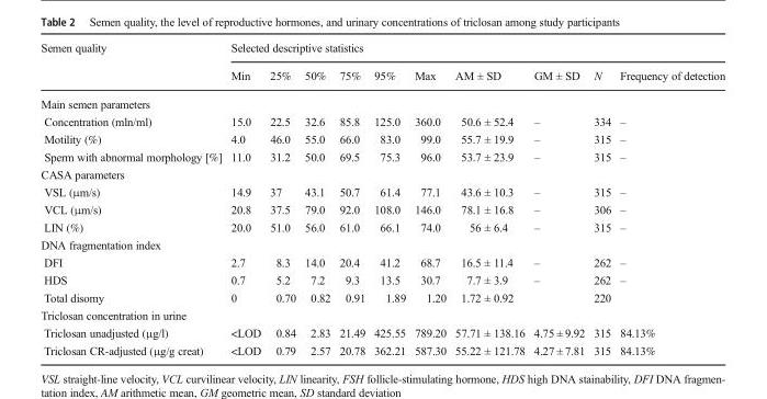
<table><thead><tr><td rowspan="2">Semen quality</td><td colspan="10">Selected descriptive statistics</td></tr><tr><td>Min</td><td>25%</td><td>50%</td><td>75%</td><td>95%</td><td>Max</td><td>AM ± SD</td><td>GM ± SD</td><td>N</td><td>Frequency of detection</td></tr></thead><tbody><tr><td colspan="11">Main semen parameters</td></tr><tr><td>Concentration (mln/ml)</td><td>15.0</td><td>22.5</td><td>32.6</td><td>85.8</td><td>125.0</td><td>360.0</td><td>50.6 ± 52.4</td><td>–</td><td>334</td><td>–</td></tr><tr><td>Motility (%)</td><td>4.0</td><td>46.0</td><td>55.0</td><td>66.0</td><td>83.0</td><td>99.0</td><td>55.7 ± 19.9</td><td>–</td><td>315</td><td>–</td></tr><tr><td>Sperm with abnormal morphology [%]</td><td>11.0</td><td>31.2</td><td>50.0</td><td>69.5</td><td>75.3</td><td>96.0</td><td>53.7 ± 23.9</td><td>–</td><td>315</td><td>–</td></tr><tr><td colspan="11">CASA parameters</td></tr><tr><td>VSL (μm/s)</td><td>14.9</td><td>37</td><td>43.1</td><td>50.7</td><td>61.4</td><td>77.1</td><td>43.6 ± 10.3</td><td>–</td><td>315</td><td>–</td></tr><tr><td>VCL (μm/s)</td><td>20.8</td><td>37.5</td><td>79.0</td><td>92.0</td><td>108.0</td><td>146.0</td><td>78.1 ± 16.8</td><td>–</td><td>306</td><td>–</td></tr><tr><td>LIN (%)</td><td>20.0</td><td>51.0</td><td>56.0</td><td>61.0</td><td>66.1</td><td>74.0</td><td>56 ± 6.4</td><td>–</td><td>315</td><td>–</td></tr><tr><td colspan="11">DNA fragmentation index</td></tr><tr><td>DFI</td><td>2.7</td><td>8.3</td><td>14.0</td><td>20.4</td><td>41.2</td><td>68.7</td><td>16.5 ± 11.4</td><td>–</td><td>262</td><td>–</td></tr><tr><td>HDS</td><td>0.7</td><td>5.2</td><td>7.2</td><td>9.3</td><td>13.5</td><td>30.7</td><td>7.7 ± 3.9</td><td>–</td><td>262</td><td>–</td></tr><tr><td>Total disomy</td><td>0</td><td>0.70</td><td>0.82</td><td>0.91</td><td>1.89</td><td>1.20</td><td>1.72 ± 0.92</td><td></td><td>220</td><td></td></tr><tr><td colspan="11">Triclosan concentration in urine</td></tr><tr><td>Triclosan unadjusted (μg/l)</td><td>&lt;LOD</td><td>0.84</td><td>2.83</td><td>21.49</td><td>425.55</td><td>789.20</td><td>57.71 ± 138.16</td><td>4.75 ± 9.92</td><td>315</td><td>84.13%</td></tr><tr><td>Triclosan CR-adjusted (μg/g creat)</td><td>&lt;LOD</td><td>0.79</td><td>2.57</td><td>20.78</td><td>362.21</td><td>587.30</td><td>55.22 ± 121.78</td><td>4.27 ± 7.81</td><td>315</td><td>84.13%</td></tr></tbody></table>